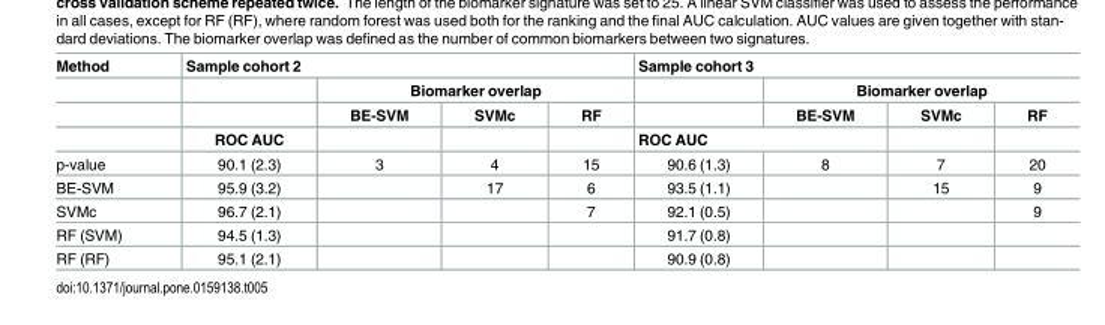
<table><thead><tr><td rowspan="4">Method</td><td colspan="4">Sample cohort 2</td><td colspan="4">Sample cohort 3</td></tr><tr><td rowspan="3">ROC AUC</td><td colspan="3">Biomarker overlap</td><td rowspan="2"></td><td colspan="3">Biomarker overlap</td></tr><tr><td rowspan="2">BE-SVM</td><td rowspan="2">SVMc</td><td rowspan="2">RF</td><td>BE-SVM</td><td rowspan="2">SVMc</td><td rowspan="2">RF</td></tr><tr><td colspan="2">ROC AUC</td></tr></thead><tbody><tr><td>p-value</td><td>90.1 (2.3)</td><td>3</td><td>4</td><td>15</td><td>90.6 (1.3)</td><td>8</td><td>7</td><td>20</td></tr><tr><td>BE-SVM</td><td>95.9 (3.2)</td><td></td><td>17</td><td>6</td><td>93.5 (1.1)</td><td></td><td>15</td><td>9</td></tr><tr><td>SVMc</td><td>96.7 (2.1)</td><td></td><td></td><td>7</td><td>92.1 (0.5)</td><td></td><td></td><td>9</td></tr><tr><td>RF (SVM)</td><td>94.5 (1.3)</td><td></td><td></td><td></td><td>91.7 (0.8)</td><td></td><td></td><td></td></tr><tr><td>RF (RF)</td><td>95.1 (2.1)</td><td></td><td></td><td></td><td>90.9 (0.8)</td><td></td><td></td><td></td></tr></tbody></table>